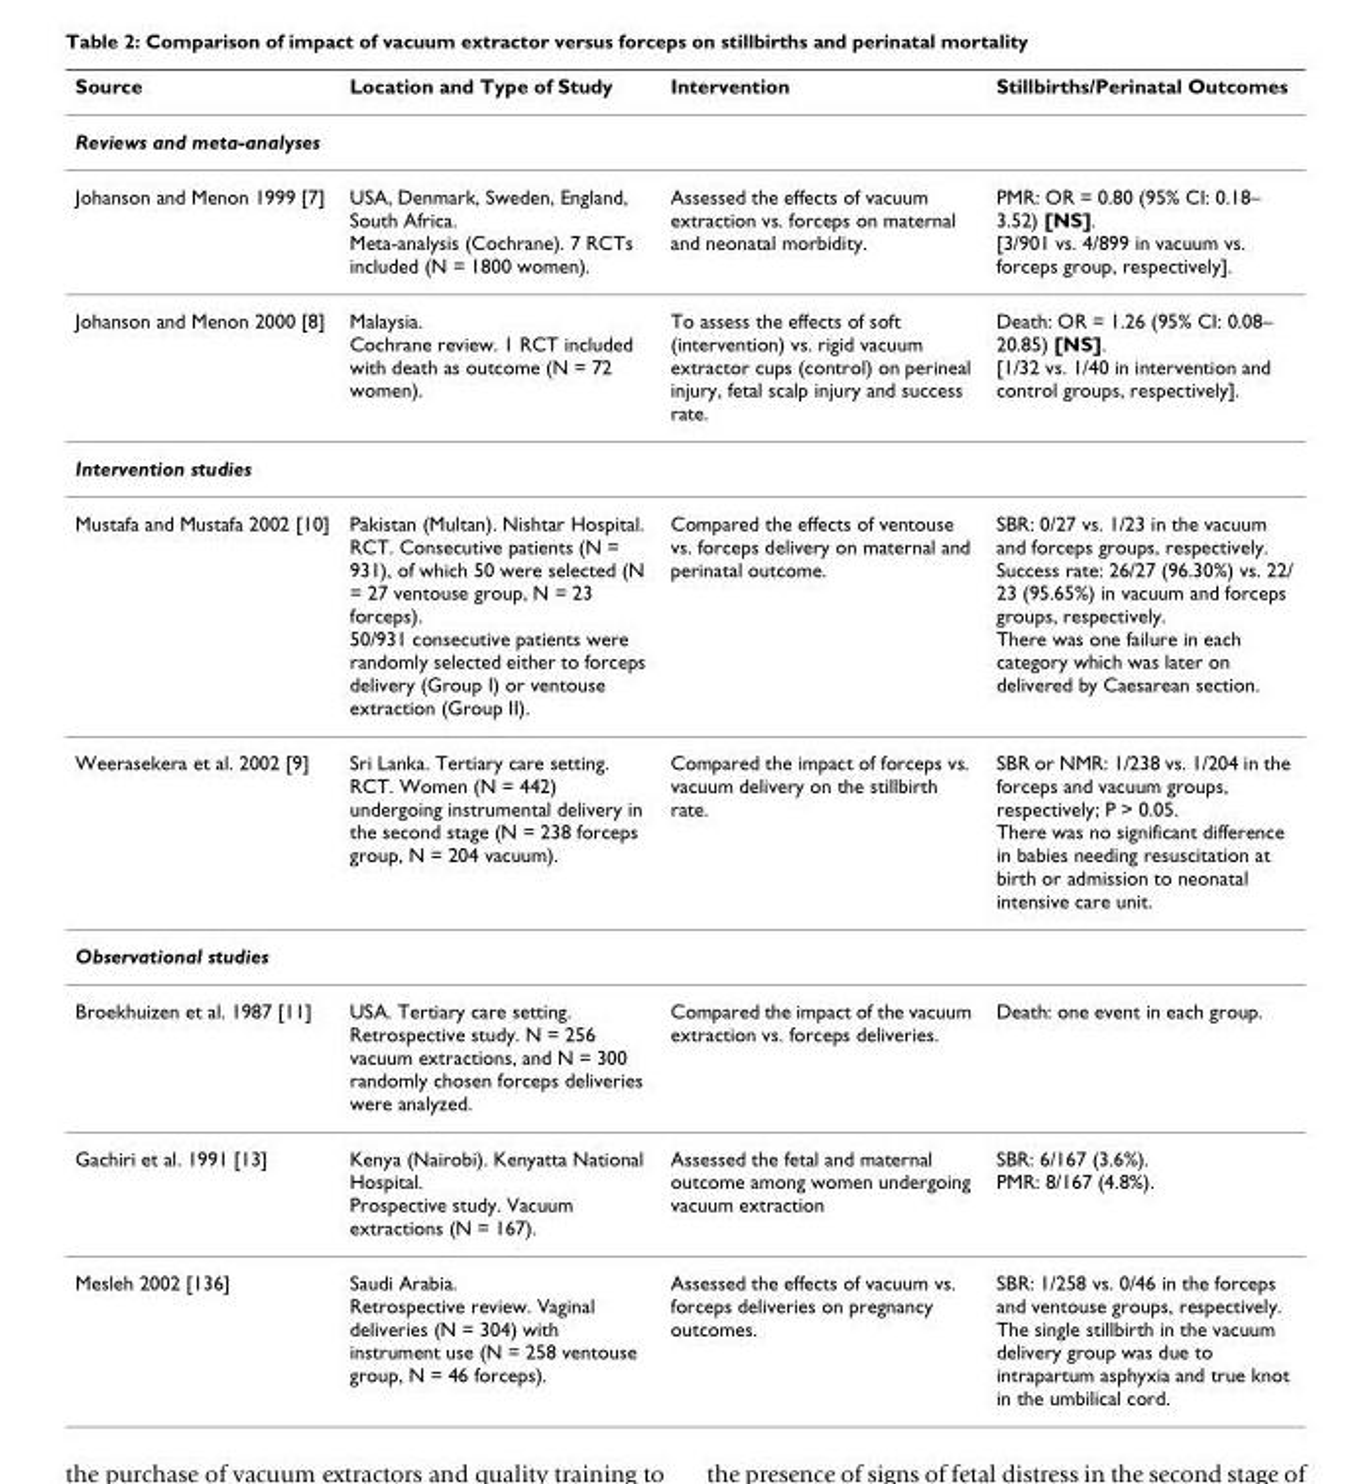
<table><thead><tr><td>Source</td><td>Location and Type of Study</td><td>Intervention</td><td>Stillbirths/Perinatal Outcomes</td></tr></thead><tbody><tr><td colspan="4">Reviews and meta-analyses</td></tr><tr><td>Johanson and Menon 1999 [7]</td><td>USA, Denmark, Sweden, England, South Africa. Meta-analysis (Cochrane). 7 RCTs included (N = 1800 women).</td><td>Assessed the effects of vacuum extraction vs. forceps on maternal and neonatal morbidity.</td><td>PMR: OR = 0.80 (95% CI: 0.18– 3.52) [NS]. [3/901 vs. 4/899 in vacuum vs. forceps group, respectively].</td></tr><tr><td>Johanson and Menon 2000 [8]</td><td>Malaysia. Cochrane review. 1 RCT included with death as outcome (N = 72 women).</td><td>To assess the effects of soft (intervention) vs. rigid vacuum extractor cups (control) on perineal injury, fetal scalp injury and success rate.</td><td>Death: OR = 1.26 (95% CI: 0.08– 20.85) [NS]. [1/32 vs. 1/40 in intervention and control groups, respectively].</td></tr><tr><td colspan="4">Intervention studies</td></tr><tr><td>Mustafa and Mustafa 2002 [10]</td><td>Pakistan (Multan). Nishtar Hospital. RCT. Consecutive patients (N = 931), of which 50 were selected (N = 27 ventouse group, N = 23 forceps). 50/931 consecutive patients were randomly selected either to forceps delivery (Group I) or ventouse extraction (Group II).</td><td>Compared the effects of ventouse vs. forceps delivery on maternal and perinatal outcome.</td><td>SBR: 0/27 vs. 1/23 in the vacuum and forceps groups, respectively. Success rate: 26/27 (96.30%) vs. 22/ 23 (95.65%) in vacuum and forceps groups, respectively. There was one failure in each category which was later on delivered by Caesarean section.</td></tr><tr><td>Weerasekera et al. 2002 [9]</td><td>Sri Lanka. Tertiary care setting. RCT. Women (N = 442) undergoing instrumental delivery in the second stage (N = 238 forceps group, N = 204 vacuum).</td><td>Compared the impact of forceps vs. vacuum delivery on the stillbirth rate.</td><td>SBR or NMR: 1/238 vs. 1/204 in the forceps and vacuum groups, respectively; P &gt; 0.05. There was no significant difference in babies needing resuscitation at birth or admission to neonatal intensive care unit.</td></tr><tr><td colspan="4">Observational studies</td></tr><tr><td>Broekhuizen et al. 1987 [11]</td><td>USA. Tertiary care setting. Retrospective study. N = 256 vacuum extractions, and N = 300 randomly chosen forceps deliveries were analyzed.</td><td>Compared the impact of the vacuum extraction vs. forceps deliveries.</td><td>Death: one event in each group.</td></tr><tr><td>Gachiri et al. 1991 [13]</td><td>Kenya (Nairobi). Kenyatta National Hospital. Prospective study. Vacuum extractions (N = 167).</td><td>Assessed the fetal and maternal outcome among women undergoing vacuum extraction</td><td>SBR: 6/167 (3.6%). PMR: 8/167 (4.8%).</td></tr><tr><td>Mesleh 2002 [136]</td><td>Saudi Arabia. Retrospective review. Vaginal deliveries (N = 304) with instrument use (N = 258 ventouse group, N = 46 forceps).</td><td>Assessed the effects of vacuum vs. forceps deliveries on pregnancy outcomes.</td><td>SBR: 1/258 vs. 0/46 in the forceps and ventouse groups, respectively. The single stillbirth in the vacuum delivery group was due to intrapartum asphyxia and true knot in the umbilical cord.</td></tr></tbody></table>